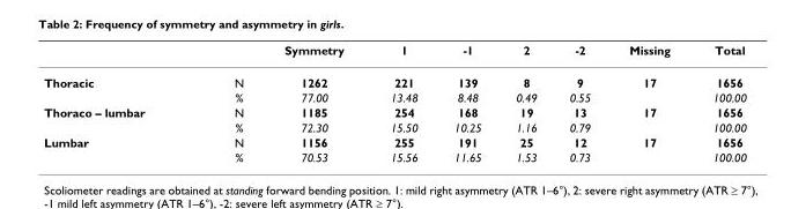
<table><thead><tr><td></td><td></td><td>Symmetry</td><td>1</td><td>-1</td><td>2</td><td>-2</td><td>Missing</td><td>Total</td></tr></thead><tbody><tr><td rowspan="2">Thoracic</td><td>N</td><td>1262</td><td>221</td><td>139</td><td>8</td><td>9</td><td>17</td><td>1656</td></tr><tr><td>%</td><td>77.00</td><td>13.48</td><td>8.48</td><td>0.49</td><td>0.55</td><td></td><td>100.00</td></tr><tr><td rowspan="2">Thoraco – lumbar</td><td>N</td><td>1185</td><td>254</td><td>168</td><td>19</td><td>13</td><td>17</td><td>1656</td></tr><tr><td>%</td><td>72.30</td><td>15.50</td><td>10.25</td><td>1.16</td><td>0.79</td><td></td><td>100.00</td></tr><tr><td rowspan="2">Lumbar</td><td>N</td><td>1156</td><td>255</td><td>191</td><td>25</td><td>12</td><td>17</td><td>1656</td></tr><tr><td>%</td><td>70.53</td><td>15.56</td><td>11.65</td><td>1.53</td><td>0.73</td><td></td><td>100.00</td></tr></tbody></table>